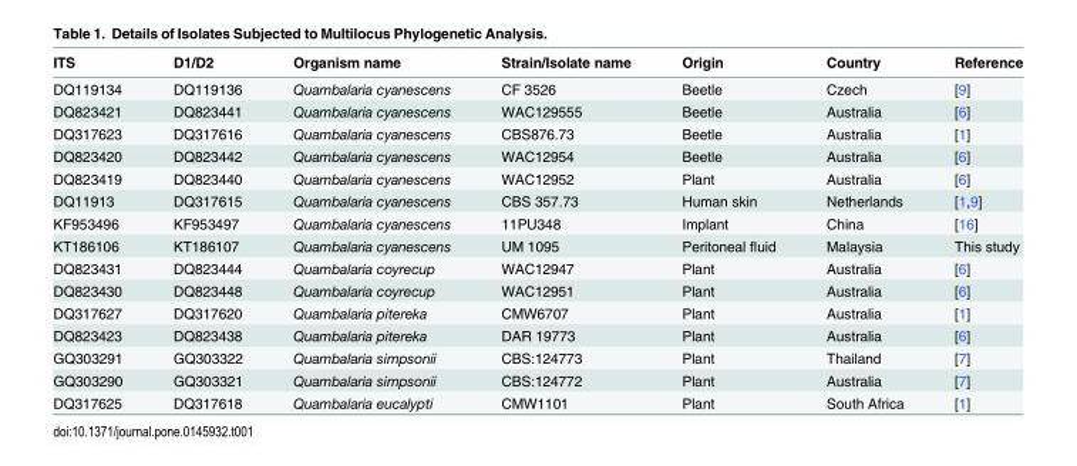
<table><thead><tr><td>ITS</td><td>D1/D2</td><td>Organism name</td><td>Strain/Isolate name</td><td>Origin</td><td>Country</td><td>Reference</td></tr></thead><tbody><tr><td>DQ119134</td><td>DQ119136</td><td>Quambalaria cyanescens</td><td>CF 3526</td><td>Beetle</td><td>Czech</td><td>[9]</td></tr><tr><td>DQ823421</td><td>DQ823441</td><td>Quambalaria cyanescens</td><td>WAC129555</td><td>Beetle</td><td>Australia</td><td>[6]</td></tr><tr><td>DQ317623</td><td>DQ317616</td><td>Quambalaria cyanescens</td><td>CBS876.73</td><td>Beetle</td><td>Australia</td><td>[1]</td></tr><tr><td>DQ823420</td><td>DQ823442</td><td>Quambalaria cyanescens</td><td>WAC12954</td><td>Beetle</td><td>Australia</td><td>[6]</td></tr><tr><td>DQ823419</td><td>DQ823440</td><td>Quambalaria cyanescens</td><td>WAC12952</td><td>Plant</td><td>Australia</td><td>[6]</td></tr><tr><td>DQ11913</td><td>DQ317615</td><td>Quambalaria cyanescens</td><td>CBS 357.73</td><td>Human skin</td><td>Netherlands</td><td>[1,9]</td></tr><tr><td>KF953496</td><td>KF953497</td><td>Quambalaria cyanescens</td><td>11PU348</td><td>Implant</td><td>China</td><td>[16]</td></tr><tr><td>KT186106</td><td>KT186107</td><td>Quambalaria cyanescens</td><td>UM 1095</td><td>Peritoneal fluid</td><td>Malaysia</td><td>This study</td></tr><tr><td>DQ823431</td><td>DQ823444</td><td>Quambalaria coyrecup</td><td>WAC12947</td><td>Plant</td><td>Australia</td><td>[6]</td></tr><tr><td>DQ823430</td><td>DQ823448</td><td>Quambalaria coyrecup</td><td>WAC12951</td><td>Plant</td><td>Australia</td><td>[6]</td></tr><tr><td>DQ317627</td><td>DQ317620</td><td>Quambalaria pitereka</td><td>CMW6707</td><td>Plant</td><td>Australia</td><td>[1]</td></tr><tr><td>DQ823423</td><td>DQ823438</td><td>Quambalaria pitereka</td><td>DAR 19773</td><td>Plant</td><td>Australia</td><td>[6]</td></tr><tr><td>GQ303291</td><td>GQ303322</td><td>Quambalaria simpsonii</td><td>CBS:124773</td><td>Plant</td><td>Thailand</td><td>[7]</td></tr><tr><td>GQ303290</td><td>GQ303321</td><td>Quambalaria simpsonii</td><td>CBS:124772</td><td>Plant</td><td>Australia</td><td>[7]</td></tr><tr><td>DQ317625</td><td>DQ317618</td><td>Quambalaria eucalypti</td><td>CMW1101</td><td>Plant</td><td>South Africa</td><td>[1]</td></tr></tbody></table>